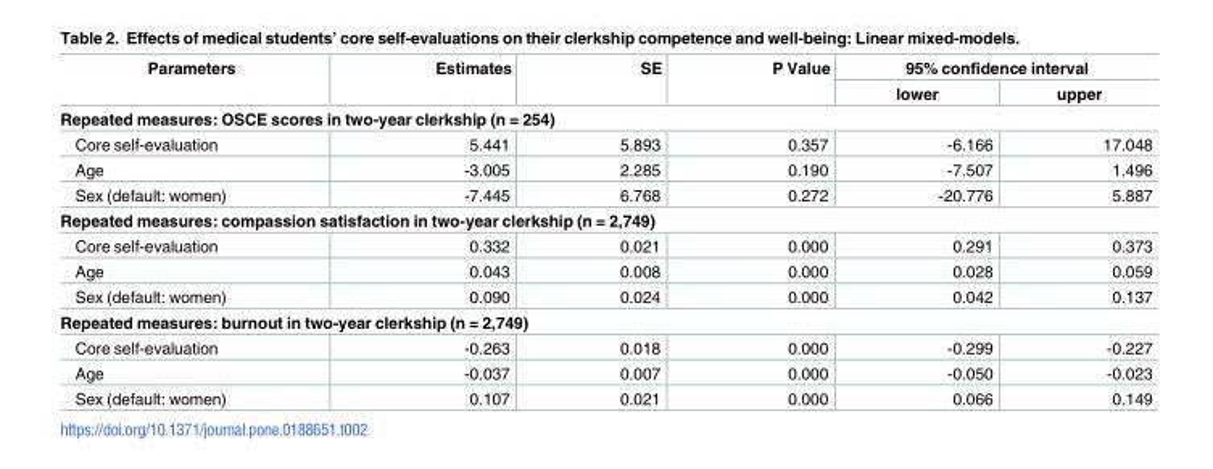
<table><thead><tr><td rowspan="2">Parameters</td><td rowspan="2">Estimates</td><td rowspan="2">SE</td><td rowspan="2">P Value</td><td colspan="2">95% confidence interval</td></tr><tr><td>lower</td><td>upper</td></tr></thead><tbody><tr><td colspan="6">Repeated measures: OSCE scores in two-year clerkship (n = 254)</td></tr><tr><td>Core self-evaluation</td><td>5.441</td><td>5.893</td><td>0.357</td><td>-6.166</td><td>17.048</td></tr><tr><td>Age</td><td>-3.005</td><td>2.285</td><td>0.190</td><td>-7.507</td><td>1.496</td></tr><tr><td>Sex (default: women)</td><td>-7.445</td><td>6.768</td><td>0.272</td><td>-20.776</td><td>5.887</td></tr><tr><td colspan="6">Repeated measures: compassion satisfaction in two-year clerkship (n = 2,749)</td></tr><tr><td>Core self-evaluation</td><td>0.332</td><td>0.021</td><td>0.000</td><td>0.291</td><td>0.373</td></tr><tr><td>Age</td><td>0.043</td><td>0.008</td><td>0.000</td><td>0.028</td><td>0.059</td></tr><tr><td>Sex (default: women)</td><td>0.090</td><td>0.024</td><td>0.000</td><td>0.042</td><td>0.137</td></tr><tr><td colspan="6">Repeated measures: burnout in two-year clerkship (n = 2,749)</td></tr><tr><td>Core self-evaluation</td><td>-0.263</td><td>0.018</td><td>0.000</td><td>-0.299</td><td>-0.227</td></tr><tr><td>Age</td><td>-0.037</td><td>0.007</td><td>0.000</td><td>-0.050</td><td>-0.023</td></tr><tr><td>Sex (default: women)</td><td>0.107</td><td>0.021</td><td>0.000</td><td>0.066</td><td>0.149</td></tr></tbody></table>